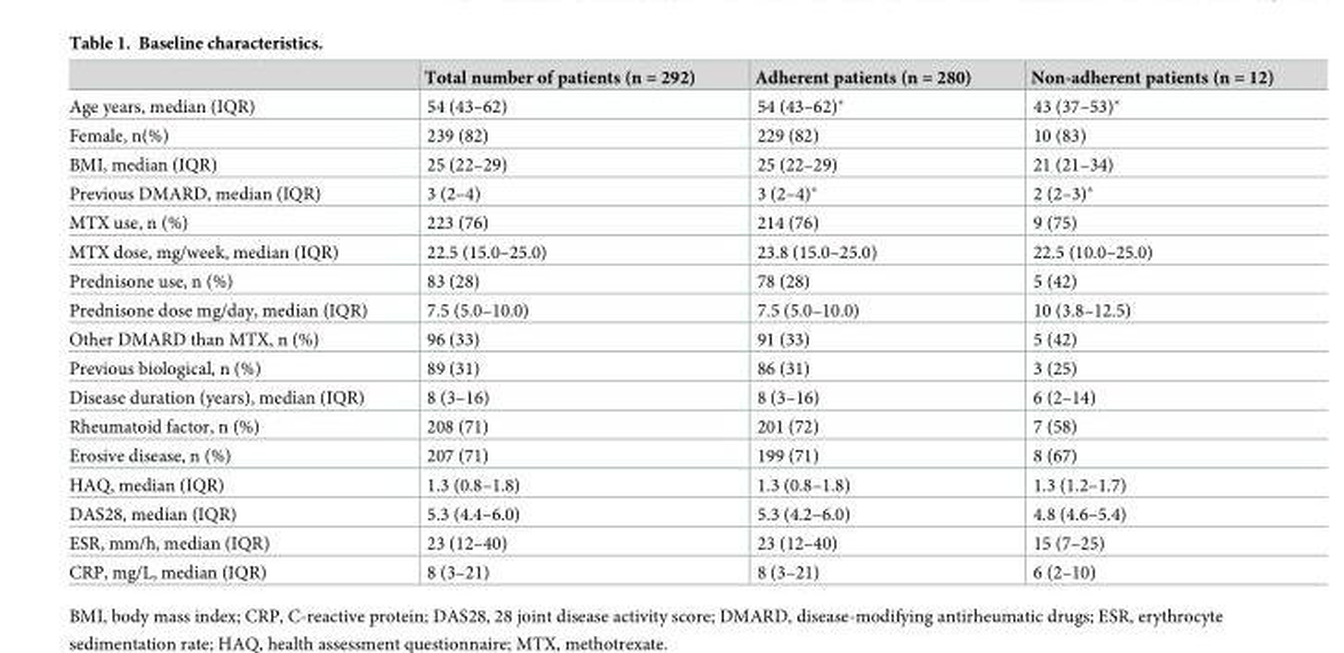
<table><thead><tr><td></td><td>Total number of patients (n = 292)</td><td>Adherent patients (n = 280)</td><td>Non-adherent patients (n = 12)</td></tr></thead><tbody><tr><td>Age years, median (IQR)</td><td>54 (43–62)</td><td>54 (43–62)*</td><td>43 (37–53)*</td></tr><tr><td>Female, n(%)</td><td>239 (82)</td><td>229 (82)</td><td>10 (83)</td></tr><tr><td>BMI, median (IQR)</td><td>25 (22–29)</td><td>25 (22–29)</td><td>21 (21–34)</td></tr><tr><td>Previous DMARD, median (IQR)</td><td>3 (2–4)</td><td>3 (2–4)*</td><td>2 (2–3)*</td></tr><tr><td>MTX use, n (%)</td><td>223 (76)</td><td>214 (76)</td><td>9 (75)</td></tr><tr><td>MTX dose, mg/week, median (IQR)</td><td>22.5 (15.0–25.0)</td><td>23.8 (15.0–25.0)</td><td>22.5 (10.0–25.0)</td></tr><tr><td>Prednisone use, n (%)</td><td>83 (28)</td><td>78 (28)</td><td>5 (42)</td></tr><tr><td>Prednisone dose mg/day, median (IQR)</td><td>7.5 (5.0–10.0)</td><td>7.5 (5.0–10.0)</td><td>10 (3.8–12.5)</td></tr><tr><td>Other DMARD than MTX, n (%)</td><td>96 (33)</td><td>91 (33)</td><td>5 (42)</td></tr><tr><td>Previous biological, n (%)</td><td>89 (31)</td><td>86 (31)</td><td>3 (25)</td></tr><tr><td>Disease duration (years), median (IQR)</td><td>8 (3–16)</td><td>8 (3–16)</td><td>6 (2–14)</td></tr><tr><td>Rheumatoid factor, n (%)</td><td>208 (71)</td><td>201 (72)</td><td>7 (58)</td></tr><tr><td>Erosive disease, n (%)</td><td>207 (71)</td><td>199 (71)</td><td>8 (67)</td></tr><tr><td>HAQ, median (IQR)</td><td>1.3 (0.8–1.8)</td><td>1.3 (0.8–1.8)</td><td>1.3 (1.2–1.7)</td></tr><tr><td>DAS28, median (IQR)</td><td>5.3 (4.4–6.0)</td><td>5.3 (4.2–6.0)</td><td>4.8 (4.6–5.4)</td></tr><tr><td>ESR, mm/h, median (IQR)</td><td>23 (12–40)</td><td>23 (12–40)</td><td>15 (7–25)</td></tr><tr><td>CRP, mg/L, median (IQR)</td><td>8 (3–21)</td><td>8 (3–21)</td><td>6 (2–10)</td></tr></tbody></table>